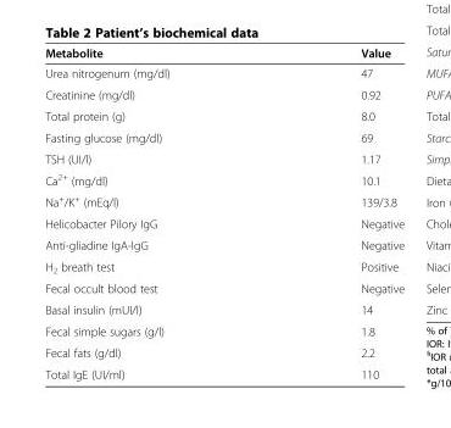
<table><thead><tr><td>Metabolite</td><td>Value</td></tr></thead><tbody><tr><td>Urea nitrogenum (mg/dl)</td><td>47</td></tr><tr><td>Creatinine (mg/dl)</td><td>0.92</td></tr><tr><td>Total protein (g)</td><td>8.0</td></tr><tr><td>Fasting glucose (mg/dl)</td><td>69</td></tr><tr><td>TSH (UI/l)</td><td>1.17</td></tr><tr><td>Ca<sup>2+</sup> (mg/dl)</td><td>10.1</td></tr><tr><td>Na<sup>+</sup>/K<sup>+</sup> (mEq/l)</td><td>139/3.8</td></tr><tr><td>Helicobacter Pilory IgG</td><td>Negative</td></tr><tr><td>Anti-gliadine IgA-IgG</td><td>Negative</td></tr><tr><td>H<sub>2</sub> breath test</td><td>Positive</td></tr><tr><td>Fecal occult blood test</td><td>Negative</td></tr><tr><td>Basal insulin (mUI/l)</td><td>14</td></tr><tr><td>Fecal simple sugars (g/l)</td><td>1.8</td></tr><tr><td>Fecal fats (g/dl)</td><td>2.2</td></tr><tr><td>Total IgE (UI/ml)</td><td>110</td></tr></tbody></table>